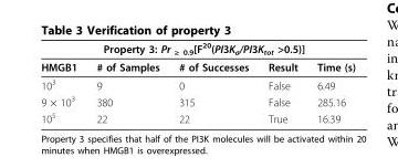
<table><thead><tr><td colspan="5">Property 3: Pr <sub>≥ 0.9</sub>[F<sup>20</sup>(PI3K<sub>a</sub>/PI3K<sub>tot</sub> &gt;0.5)]</td></tr><tr><td>HMGB1</td><td># of Samples</td><td># of Successes</td><td>Result</td><td>Time (s)</td></tr></thead><tbody><tr><td>10<sup>3</sup></td><td>9</td><td>0</td><td>False</td><td>6.49</td></tr><tr><td>9 × 10<sup>3</sup></td><td>380</td><td>315</td><td>False</td><td>285.16</td></tr><tr><td>10<sup>5</sup></td><td>22</td><td>22</td><td>True</td><td>16.39</td></tr></tbody></table>